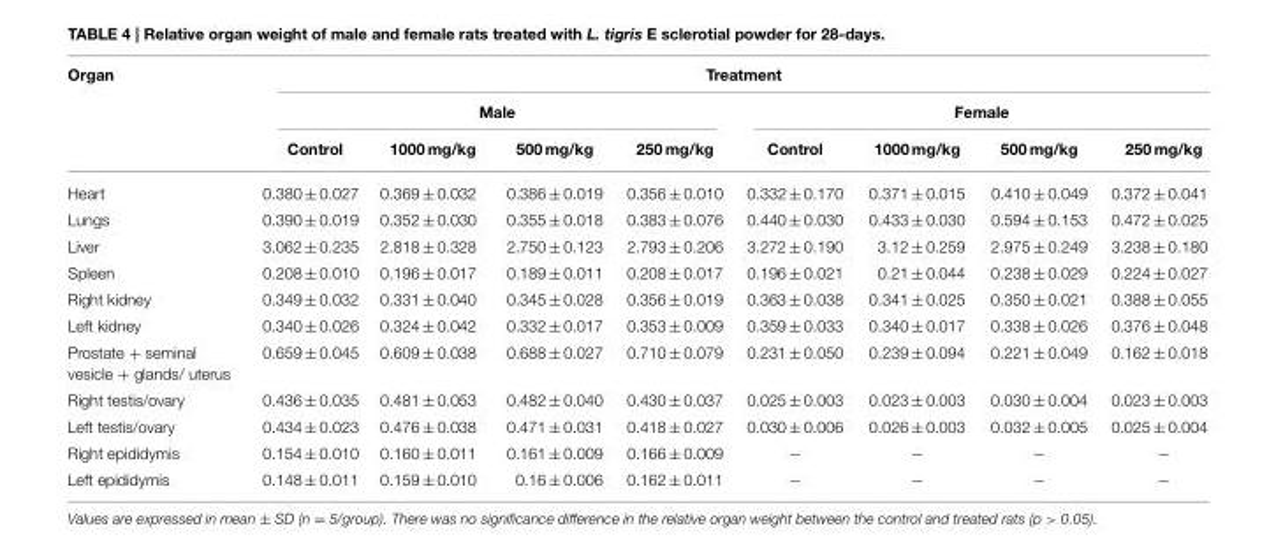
<table><thead><tr><td rowspan="3">Organ</td><td colspan="8">Treatment</td></tr><tr><td colspan="4">Male</td><td colspan="4">Female</td></tr><tr><td>Control</td><td>1000 mg/kg</td><td>500 mg/kg</td><td>250 mg/kg</td><td>Control</td><td>1000 mg/kg</td><td>500 mg/kg</td><td>250 mg/kg</td></tr></thead><tbody><tr><td>Heart</td><td>0.380 ± 0.027</td><td>0.369 ± 0.032</td><td>0.386 ± 0.019</td><td>0.356 ± 0.010</td><td>0.332 ± 0.170</td><td>0.371 ± 0.015</td><td>0.410 ± 0.049</td><td>0.372 ± 0.041</td></tr><tr><td>Lungs</td><td>0.390 ± 0.019</td><td>0.352 ± 0.030</td><td>0.355 ± 0.018</td><td>0.383 ± 0.076</td><td>0.440 ± 0.030</td><td>0.433 ± 0.030</td><td>0.594 ± 0.153</td><td>0.472 ± 0.025</td></tr><tr><td>Liver</td><td>3.062 ± 0.235</td><td>2.818 ± 0.328</td><td>2.750 ± 0.123</td><td>2.793 ± 0.206</td><td>3.272 ± 0.190</td><td>3.12 ± 0.259</td><td>2.975 ± 0.249</td><td>3.238 ± 0.180</td></tr><tr><td>Spleen</td><td>0.208 ± 0.010</td><td>0.196 ± 0.017</td><td>0.189 ± 0.011</td><td>0.208 ± 0.017</td><td>0.196 ± 0.021</td><td>0.21 ± 0.044</td><td>0.238 ± 0.029</td><td>0.224 ± 0.027</td></tr><tr><td>Right kidney</td><td>0.349 ± 0.032</td><td>0.331 ± 0.040</td><td>0.345 ± 0.028</td><td>0.356 ± 0.019</td><td>0.363 ± 0.038</td><td>0.341 ± 0.025</td><td>0.350 ± 0.021</td><td>0.388 ± 0.055</td></tr><tr><td>Left kidney</td><td>0.340 ± 0.026</td><td>0.324 ± 0.042</td><td>0.332 ± 0.017</td><td>0.353 ± 0.009</td><td>0.359 ± 0.033</td><td>0.340 ± 0.017</td><td>0.338 ± 0.026</td><td>0.376 ± 0.048</td></tr><tr><td>Prostate + seminal vesicle + glands/ uterus</td><td>0.659 ± 0.045</td><td>0.609 ± 0.038</td><td>0.688 ± 0.027</td><td>0.710 ± 0.079</td><td>0.231 ± 0.050</td><td>0.239 ± 0.094</td><td>0.221 ± 0.049</td><td>0.162 ± 0.018</td></tr><tr><td>Right testis/ovary</td><td>0.436 ± 0.035</td><td>0.481 ± 0.053</td><td>0.482 ± 0.040</td><td>0.430 ± 0.037</td><td>0.025 ± 0.003</td><td>0.023 ± 0.003</td><td>0.030 ± 0.004</td><td>0.023 ± 0.003</td></tr><tr><td>Left testis/ovary</td><td>0.434 ± 0.023</td><td>0.476 ± 0.038</td><td>0.471 ± 0.031</td><td>0.418 ± 0.027</td><td>0.030 ± 0.006</td><td>0.026 ± 0.003</td><td>0.032 ± 0.005</td><td>0.025 ± 0.004</td></tr><tr><td>Right epididymis</td><td>0.154 ± 0.010</td><td>0.160 ± 0.011</td><td>0.161 ± 0.009</td><td>0.166 ± 0.009</td><td>−</td><td>−</td><td>−</td><td>−</td></tr><tr><td>Left epididymis</td><td>0.148 ± 0.011</td><td>0.159 ± 0.010</td><td>0.16 ± 0.006</td><td>0.162 ± 0.011</td><td>−</td><td>−</td><td>−</td><td>−</td></tr></tbody></table>